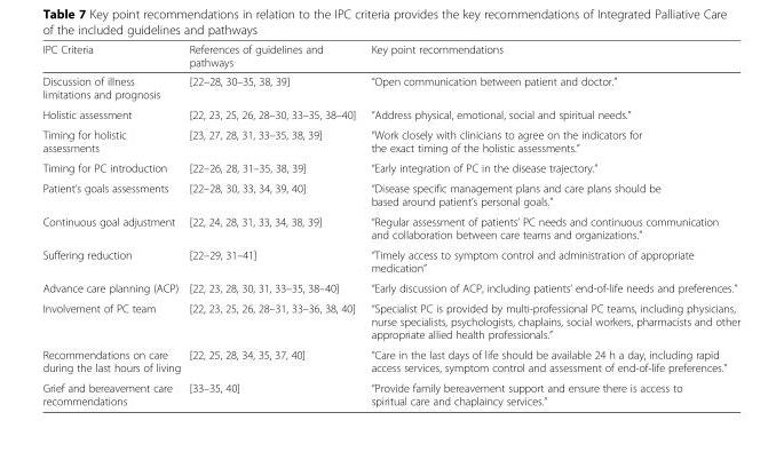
<table><thead><tr><td>IPC Criteria</td><td>References of guidelines and pathways</td><td>Key point recommendations</td></tr></thead><tbody><tr><td>Discussion of illness limitations and prognosis</td><td>[22–28, 30–35, 38, 39]</td><td>“Open communication between patient and doctor.”</td></tr><tr><td>Holistic assessment</td><td>[22, 23, 25, 26, 28–30, 33–35, 38–40]</td><td>“Address physical, emotional, social and spiritual needs.”</td></tr><tr><td>Timing for holistic assessments</td><td>[23, 27, 28, 31, 33–35, 38, 39]</td><td>“Work closely with clinicians to agree on the indicators for the exact timing of the holistic assessments.”</td></tr><tr><td>Timing for PC introduction</td><td>[22–26, 28, 31–35, 38, 39]</td><td>“Early integration of PC in the disease trajectory.”</td></tr><tr><td>Patient’s goals assessments</td><td>[22–28, 30, 33, 34, 39, 40]</td><td>“Disease specific management plans and care plans should be based around patient’s personal goals.”</td></tr><tr><td>Continuous goal adjustment</td><td>[22, 24, 28, 31, 33, 34, 38, 39]</td><td>“Regular assessment of patients’ PC needs and continuous communication and collaboration between care teams and organizations.”</td></tr><tr><td>Suffering reduction</td><td>[22–29, 31–41]</td><td>“Timely access to symptom control and administration of appropriate medication”</td></tr><tr><td>Advance care planning (ACP)</td><td>[22, 23, 28, 30, 31, 33–35, 38–40]</td><td>“Early discussion of ACP, including patients’ end-of-life needs and preferences.”</td></tr><tr><td>Involvement of PC team</td><td>[22, 23, 25, 26, 28–31, 33–36, 38, 40]</td><td>“Specialist PC is provided by multi-professional PC teams, including physicians, nurse specialists, psychologists, chaplains, social workers, pharmacists and other appropriate allied health professionals.”</td></tr><tr><td>Recommendations on care during the last hours of living</td><td>[22, 25, 28, 34, 35, 37, 40]</td><td>“Care in the last days of life should be available 24 h a day, including rapid access services, symptom control and assessment of end-of-life preferences.”</td></tr><tr><td>Grief and bereavement care recommendations</td><td>[33–35, 40]</td><td>“Provide family bereavement support and ensure there is access to spiritual care and chaplaincy services.”</td></tr></tbody></table>